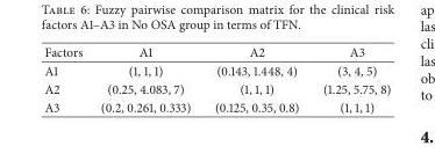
<table><thead><tr><td>Factors</td><td>A1</td><td>A2</td><td>A3</td></tr></thead><tbody><tr><td>A1</td><td>(1, 1, 1)</td><td>(0.143, 1.448, 4)</td><td>(3, 4, 5)</td></tr><tr><td>A2</td><td>(0.25, 4.083, 7)</td><td>(1, 1, 1)</td><td>(1.25, 5.75, 8)</td></tr><tr><td>A3</td><td>(0.2, 0.261, 0.333)</td><td>(0.125, 0.35, 0.8)</td><td>(1, 1, 1)</td></tr></tbody></table>